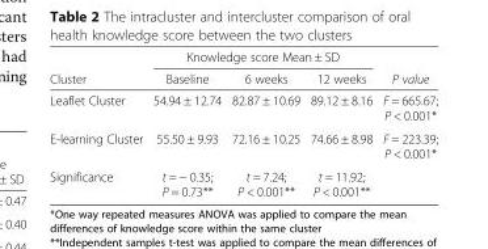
<table><thead><tr><td rowspan="2">Cluster</td><td colspan="3">Knowledge score Mean ± SD</td><td rowspan="2">P value</td></tr><tr><td>Baseline</td><td>6 weeks</td><td>12 weeks</td></tr></thead><tbody><tr><td>Leaflet Cluster</td><td>54.94 ± 12.74</td><td>82.87 ± 10.69</td><td>89.12 ± 8.16</td><td>F = 665.67; P &lt; 0.001*</td></tr><tr><td>E-learning Cluster</td><td>55.50 ± 9.93</td><td>72.16 ± 10.25</td><td>74.66 ± 8.98</td><td>F = 223.39; P &lt; 0.001*</td></tr><tr><td>Significance</td><td>t = − 0.35; P = 0.73**</td><td>t = 7.24; P &lt; 0.001**</td><td>t = 11.92; P &lt; 0.001**</td><td></td></tr></tbody></table>